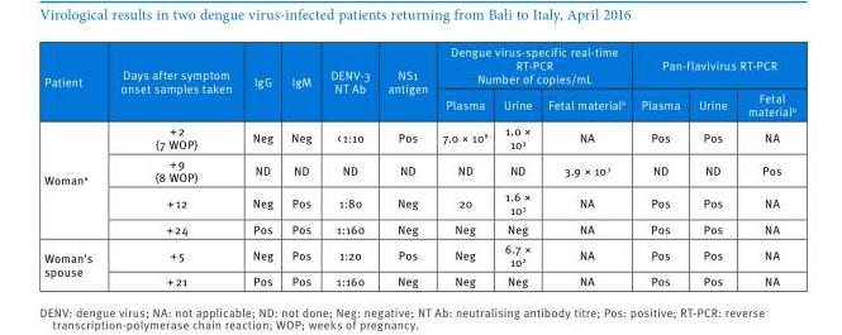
<table><thead><tr><td rowspan="2">Patient</td><td rowspan="2">Days after symptom onset samples taken</td><td rowspan="2">IgG</td><td rowspan="2">IgM</td><td rowspan="2">DENV-3 NT Ab</td><td rowspan="2">NS1 antigen</td><td colspan="3">Dengue virus-specific real-time RT-PCR Number of copies/mL</td><td colspan="3">Pan-flavivirus RT-PCR</td></tr><tr><td>Plasma</td><td>Urine</td><td>Fetal material<sup>b</sup></td><td>Plasma</td><td>Urine</td><td>Fetal material<sup>b</sup></td></tr></thead><tbody><tr><td rowspan="4">Woman<sup>a</sup></td><td>+ 2 (7 WOP)</td><td>Neg</td><td>Neg</td><td>&lt; 1:10</td><td>Pos</td><td>7.0 × 10<sup>8</sup></td><td>1.0 × 10<sup>3</sup></td><td>NA</td><td>Pos</td><td>Pos</td><td>NA</td></tr><tr><td>+ 9 (8 WOP)</td><td>ND</td><td>ND</td><td>ND</td><td>ND</td><td>ND</td><td>ND</td><td>3.9 × 10<sup>3</sup></td><td>ND</td><td>ND</td><td>Pos</td></tr><tr><td>+ 12</td><td>Neg</td><td>Pos</td><td>1:80</td><td>Neg</td><td>20</td><td>1.6 × 10<sup>3</sup></td><td>NA</td><td>Pos</td><td>Pos</td><td>NA</td></tr><tr><td>+ 24</td><td>Pos</td><td>Pos</td><td>1:160</td><td>Neg</td><td>Neg</td><td>Neg</td><td>NA</td><td>Pos</td><td>Pos</td><td>NA</td></tr><tr><td rowspan="2">Woman’s spouse</td><td>+ 5</td><td>Neg</td><td>Pos</td><td>1:20</td><td>Pos</td><td>Neg</td><td>6.7 × 10<sup>2</sup></td><td>NA</td><td>Pos</td><td>Pos</td><td>NA</td></tr><tr><td>+ 21</td><td>Pos</td><td>Pos</td><td>1:160</td><td>Neg</td><td>Neg</td><td>Neg</td><td>NA</td><td>Pos</td><td>Pos</td><td>NA</td></tr></tbody></table>